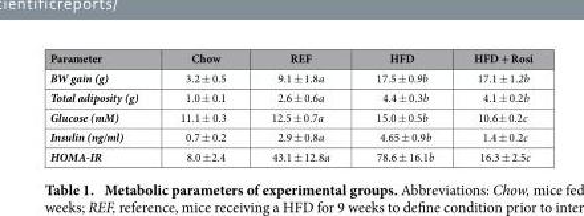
<table><thead><tr><td>Parameter</td><td>Chow</td><td>REF</td><td>HFD</td><td>HFD + Rosi</td></tr></thead><tbody><tr><td>BW gain (g)</td><td>3.2 ± 0.5</td><td>9.1 ± 1.8a</td><td>17.5 ± 0.9b</td><td>17.1 ± 1.2b</td></tr><tr><td>Total adiposity (g)</td><td>1.0 ± 0.1</td><td>2.6 ± 0.6a</td><td>4.4 ± 0.3b</td><td>4.1 ± 0.2b</td></tr><tr><td>Glucose (mM)</td><td>11.1 ± 0.3</td><td>12.5 ± 0.7a</td><td>15.0 ± 0.5b</td><td>10.6± 0.2c</td></tr><tr><td>Insulin (ng/ml)</td><td>0.7 ± 0.2</td><td>2.9 ± 0.8a</td><td>4.65 ± 0.9b</td><td>1.4 ± 0.2c</td></tr><tr><td>HOMA-IR</td><td>8.0 ±2.4</td><td>43.1 ± 12.8a</td><td>78.6 ± 16.1b</td><td>16.3 ± 2.5c</td></tr></tbody></table>